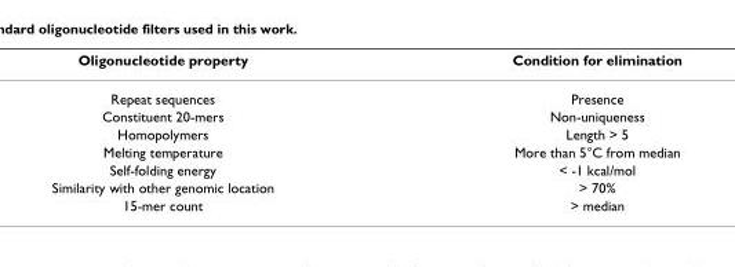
<table><thead><tr><td>Oligonucleotide property</td><td>Condition for elimination</td></tr></thead><tbody><tr><td>Repeat sequences</td><td>Presence</td></tr><tr><td>Constituent 20-mers</td><td>Non-uniqueness</td></tr><tr><td>Homopolymers</td><td>Length &gt; 5</td></tr><tr><td>Melting temperature</td><td>More than 5°C from median</td></tr><tr><td>Self-folding energy</td><td>&lt; -1 kcal/mol</td></tr><tr><td>Similarity with other genomic location</td><td>&gt; 70%</td></tr><tr><td>15-mer count</td><td>&gt; median</td></tr></tbody></table>